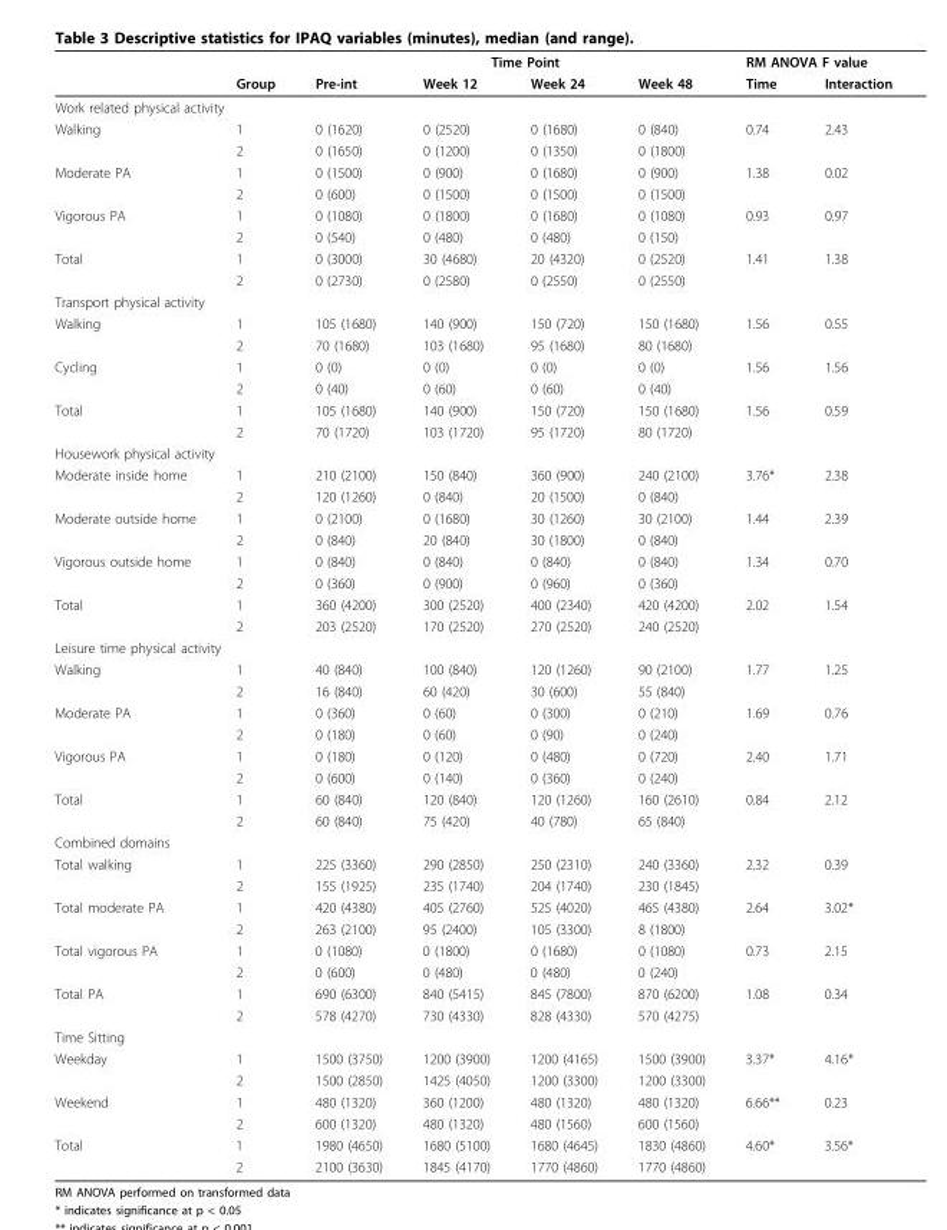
<table><thead><tr><td rowspan="2"></td><td rowspan="2">Group</td><td colspan="4">Time Point</td><td colspan="2">RM ANOVA F value</td></tr><tr><td>Pre-int</td><td>Week 12</td><td>Week 24</td><td>Week 48</td><td>Time</td><td>Interaction</td></tr></thead><tbody><tr><td colspan="8">Work related physical activity</td></tr><tr><td rowspan="2">Walking</td><td>1</td><td>0 (1620)</td><td>0 (2520)</td><td>0 (1680)</td><td>0 (840)</td><td>0.74</td><td>2.43</td></tr><tr><td>2</td><td>0 (1650)</td><td>0 (1200)</td><td>0 (1350)</td><td>0 (1800)</td><td></td><td></td></tr><tr><td rowspan="2">Moderate PA</td><td>1</td><td>0 (1500)</td><td>0 (900)</td><td>0 (1680)</td><td>0 (900)</td><td>1.38</td><td>0.02</td></tr><tr><td>2</td><td>0 (600)</td><td>0 (1500)</td><td>0 (1500)</td><td>0 (1500)</td><td></td><td></td></tr><tr><td rowspan="2">Vigorous PA</td><td>1</td><td>0 (1080)</td><td>0 (1800)</td><td>0 (1680)</td><td>0 (1080)</td><td>0.93</td><td>0.97</td></tr><tr><td>2</td><td>0 (540)</td><td>0 (480)</td><td>0 (480)</td><td>0 (150)</td><td></td><td></td></tr><tr><td rowspan="2">Total</td><td>1</td><td>0 (3000)</td><td>30 (4680)</td><td>20 (4320)</td><td>0 (2520)</td><td>1.41</td><td>1.38</td></tr><tr><td>2</td><td>0 (2730)</td><td>0 (2580)</td><td>0 (2550)</td><td>0 (2550)</td><td></td><td></td></tr><tr><td colspan="8">Transport physical activity</td></tr><tr><td rowspan="2">Walking</td><td>1</td><td>105 (1680)</td><td>140 (900)</td><td>150 (720)</td><td>150 (1680)</td><td>1.56</td><td>0.55</td></tr><tr><td>2</td><td>70 (1680)</td><td>103 (1680)</td><td>95 (1680)</td><td>80 (1680)</td><td></td><td></td></tr><tr><td rowspan="2">Cycling</td><td>1</td><td>0 (0)</td><td>0 (0)</td><td>0 (0)</td><td>0 (0)</td><td>1.56</td><td>1.56</td></tr><tr><td>2</td><td>0 (40)</td><td>0 (60)</td><td>0 (60)</td><td>0 (40)</td><td></td><td></td></tr><tr><td rowspan="2">Total</td><td>1</td><td>105 (1680)</td><td>140 (900)</td><td>150 (720)</td><td>150 (1680)</td><td>1.56</td><td>0.59</td></tr><tr><td>2</td><td>70 (1720)</td><td>103 (1720)</td><td>95 (1720)</td><td>80 (1720)</td><td></td><td></td></tr><tr><td colspan="8">Housework physical activity</td></tr><tr><td rowspan="2">Moderate inside home</td><td>1</td><td>210 (2100)</td><td>150 (840)</td><td>360 (900)</td><td>240 (2100)</td><td>3.76*</td><td>2.38</td></tr><tr><td>2</td><td>120 (1260)</td><td>0 (840)</td><td>20 (1500)</td><td>0 (840)</td><td></td><td></td></tr><tr><td rowspan="2">Moderate outside home</td><td>1</td><td>0 (2100)</td><td>0 (1680)</td><td>30 (1260)</td><td>30 (2100)</td><td>1.44</td><td>2.39</td></tr><tr><td>2</td><td>0 (840)</td><td>20 (840)</td><td>30 (1800)</td><td>0 (840)</td><td></td><td></td></tr><tr><td rowspan="2">Vigorous outside home</td><td>1</td><td>0 (840)</td><td>0 (840)</td><td>0 (840)</td><td>0 (840)</td><td>1.34</td><td>0.70</td></tr><tr><td>2</td><td>0 (360)</td><td>0 (900)</td><td>0 (960)</td><td>0 (360)</td><td></td><td></td></tr><tr><td rowspan="2">Total</td><td>1</td><td>360 (4200)</td><td>300 (2520)</td><td>400 (2340)</td><td>420 (4200)</td><td>2.02</td><td>1.54</td></tr><tr><td>2</td><td>203 (2520)</td><td>170 (2520)</td><td>270 (2520)</td><td>240 (2520)</td><td></td><td></td></tr><tr><td colspan="8">Leisure time physical activity</td></tr><tr><td rowspan="2">Walking</td><td>1</td><td>40 (840)</td><td>100 (840)</td><td>120 (1260)</td><td>90 (2100)</td><td>1.77</td><td>1.25</td></tr><tr><td>2</td><td>16 (840)</td><td>60 (420)</td><td>30 (600)</td><td>55 (840)</td><td></td><td></td></tr><tr><td rowspan="2">Moderate PA</td><td>1</td><td>0 (360)</td><td>0 (60)</td><td>0 (300)</td><td>0 (210)</td><td>1.69</td><td>0.76</td></tr><tr><td>2</td><td>0 (180)</td><td>0 (60)</td><td>0 (90)</td><td>0 (240)</td><td></td><td></td></tr><tr><td rowspan="2">Vigorous PA</td><td>1</td><td>0 (180)</td><td>0 (120)</td><td>0 (480)</td><td>0 (720)</td><td>2.40</td><td>1.71</td></tr><tr><td>2</td><td>0 (600)</td><td>0 (140)</td><td>0 (360)</td><td>0 (240)</td><td></td><td></td></tr><tr><td rowspan="2">Total</td><td>1</td><td>60 (840)</td><td>120 (840)</td><td>120 (1260)</td><td>160 (2610)</td><td>0.84</td><td>2.12</td></tr><tr><td>2</td><td>60 (840)</td><td>75 (420)</td><td>40 (780)</td><td>65 (840)</td><td></td><td></td></tr><tr><td colspan="8">Combined domains</td></tr><tr><td rowspan="2">Total walking</td><td>1</td><td>225 (3360)</td><td>290 (2850)</td><td>250 (2310)</td><td>240 (3360)</td><td>2.32</td><td>0.39</td></tr><tr><td>2</td><td>155 (1925)</td><td>235 (1740)</td><td>204 (1740)</td><td>230 (1845)</td><td></td><td></td></tr><tr><td rowspan="2">Total moderate PA</td><td>1</td><td>420 (4380)</td><td>405 (2760)</td><td>525 (4020)</td><td>465 (4380)</td><td>2.64</td><td>3.02*</td></tr><tr><td>2</td><td>263 (2100)</td><td>95 (2400)</td><td>105 (3300)</td><td>8 (1800)</td><td></td><td></td></tr><tr><td rowspan="2">Total vigorous PA</td><td>1</td><td>0 (1080)</td><td>0 (1800)</td><td>0 (1680)</td><td>0 (1080)</td><td>0.73</td><td>2.15</td></tr><tr><td>2</td><td>0 (600)</td><td>0 (480)</td><td>0 (480)</td><td>0 (240)</td><td></td><td></td></tr><tr><td rowspan="2">Total PA</td><td>1</td><td>690 (6300)</td><td>840 (5415)</td><td>845 (7800)</td><td>870 (6200)</td><td>1.08</td><td>0.34</td></tr><tr><td>2</td><td>578 (4270)</td><td>730 (4330)</td><td>828 (4330)</td><td>570 (4275)</td><td></td><td></td></tr><tr><td colspan="8">Time Sitting</td></tr><tr><td rowspan="2">Weekday</td><td>1</td><td>1500 (3750)</td><td>1200 (3900)</td><td>1200 (4165)</td><td>1500 (3900)</td><td>3.37*</td><td>4.16*</td></tr><tr><td>2</td><td>1500 (2850)</td><td>1425 (4050)</td><td>1200 (3300)</td><td>1200 (3300)</td><td></td><td></td></tr><tr><td rowspan="2">Weekend</td><td>1</td><td>480 (1320)</td><td>360 (1200)</td><td>480 (1320)</td><td>480 (1320)</td><td>6.66**</td><td>0.23</td></tr><tr><td>2</td><td>600 (1320)</td><td>480 (1320)</td><td>480 (1560)</td><td>600 (1560)</td><td></td><td></td></tr><tr><td rowspan="2">Total</td><td>1</td><td>1980 (4650)</td><td>1680 (5100)</td><td>1680 (4645)</td><td>1830 (4860)</td><td>4.60*</td><td>3.56*</td></tr><tr><td>2</td><td>2100 (3630)</td><td>1845 (4170)</td><td>1770 (4860)</td><td>1770 (4860)</td><td></td><td></td></tr></tbody></table>